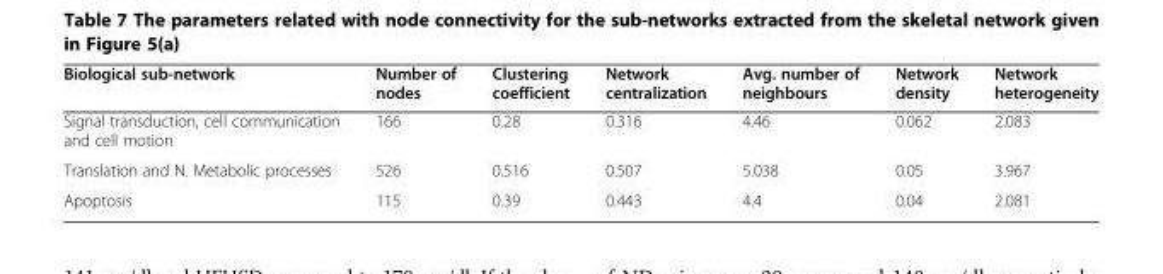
<table><thead><tr><td>Biological sub-network</td><td>Number of nodes</td><td>Clustering coefficient</td><td>Network centralization</td><td>Avg. number of neighbours</td><td>Network density</td><td>Network heterogeneity</td></tr></thead><tbody><tr><td>Signal transduction, cell communication and cell motion</td><td>166</td><td>0.28</td><td>0.316</td><td>4.46</td><td>0.062</td><td>2.083</td></tr><tr><td>Translation and N. Metabolic processes</td><td>526</td><td>0.516</td><td>0.507</td><td>5.038</td><td>0.05</td><td>3.967</td></tr><tr><td>Apoptosis</td><td>115</td><td>0.39</td><td>0.443</td><td>4.4</td><td>0.04</td><td>2.081</td></tr></tbody></table>